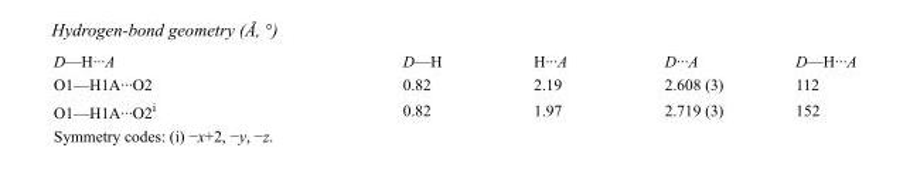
<table><tbody><tr><td>D—H···A</td><td>D—H</td><td>H···A</td><td>D···A</td><td>D—H···A</td></tr><tr><td>O1—H1A···O2</td><td>0.82</td><td>2.19</td><td>2.608 (3)</td><td>112</td></tr><tr><td>O1—H1A···O2<sup>i</sup></td><td>0.82</td><td>1.97</td><td>2.719 (3)</td><td>152</td></tr></tbody></table>